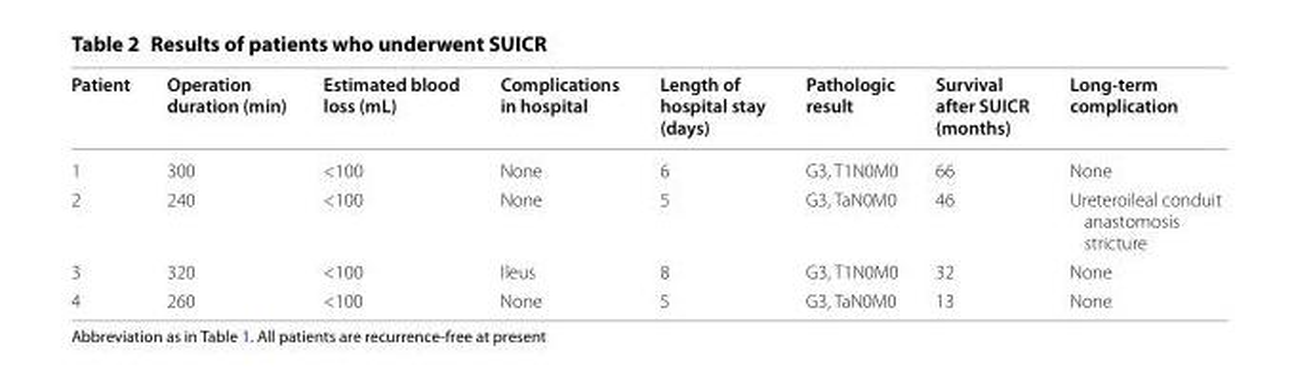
<table><thead><tr><td>Patient</td><td>Operation duration (min)</td><td>Estimated blood loss (mL)</td><td>Complications in hospital</td><td>Length of hospital stay (days)</td><td>Pathologic result</td><td>Survival after SUICR (months)</td><td>Long-term complication</td></tr></thead><tbody><tr><td>1</td><td>300</td><td>&lt;100</td><td>None</td><td>6</td><td>G3, T1N0M0</td><td>66</td><td>None</td></tr><tr><td>2</td><td>240</td><td>&lt;100</td><td>None</td><td>5</td><td>G3, TaN0M0</td><td>46</td><td>Ureteroileal conduit anastomosis stricture</td></tr><tr><td>3</td><td>320</td><td>&lt;100</td><td>Ileus</td><td>8</td><td>G3, T1N0M0</td><td>32</td><td>None</td></tr><tr><td>4</td><td>260</td><td>&lt;100</td><td>None</td><td>5</td><td>G3, TaN0M0</td><td>13</td><td>None</td></tr></tbody></table>